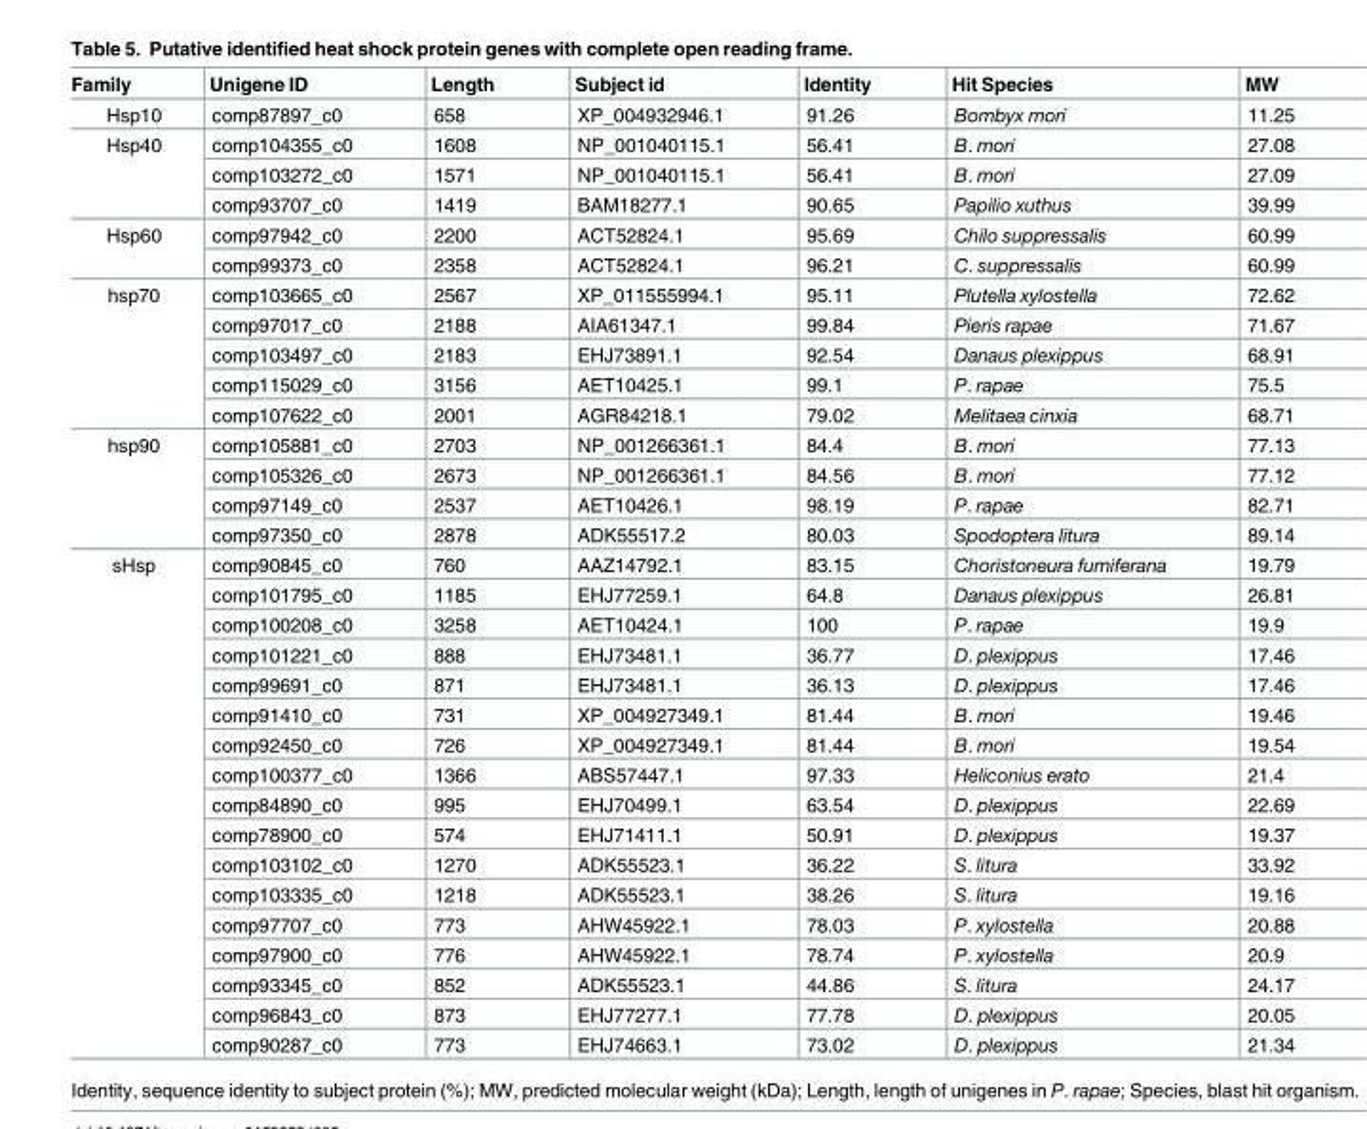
<table><thead><tr><td>Family</td><td>Unigene ID</td><td>Length</td><td>Subject id</td><td>Identity</td><td>Hit Species</td><td>MW</td></tr></thead><tbody><tr><td>Hsp10</td><td>comp87897_c0</td><td>658</td><td>XP_004932946.1</td><td>91.26</td><td>Bombyx mori</td><td>11.25</td></tr><tr><td rowspan="3">Hsp40</td><td>comp104355_c0</td><td>1608</td><td>NP_001040115.1</td><td>56.41</td><td>B. mori</td><td>27.08</td></tr><tr><td>comp103272_c0</td><td>1571</td><td>NP_001040115.1</td><td>56.41</td><td>B. mori</td><td>27.09</td></tr><tr><td>comp93707_c0</td><td>1419</td><td>BAM18277.1</td><td>90.65</td><td>Papilio xuthus</td><td>39.99</td></tr><tr><td rowspan="2">Hsp60</td><td>comp97942_c0</td><td>2200</td><td>ACT52824.1</td><td>95.69</td><td>Chilo suppressalis</td><td>60.99</td></tr><tr><td>comp99373_c0</td><td>2358</td><td>ACT52824.1</td><td>96.21</td><td>C. suppressalis</td><td>60.99</td></tr><tr><td rowspan="5">hsp70</td><td>comp103665_c0</td><td>2567</td><td>XP_011555994.1</td><td>95.11</td><td>Plutella xylostella</td><td>72.62</td></tr><tr><td>comp97017_c0</td><td>2188</td><td>AIA61347.1</td><td>99.84</td><td>Pieris rapae</td><td>71.67</td></tr><tr><td>comp103497_c0</td><td>2183</td><td>EHJ73891.1</td><td>92.54</td><td>Danaus plexippus</td><td>68.91</td></tr><tr><td>comp115029_c0</td><td>3156</td><td>AET10425.1</td><td>99.1</td><td>P. rapae</td><td>75.5</td></tr><tr><td>comp107622_c0</td><td>2001</td><td>AGR84218.1</td><td>79.02</td><td>Melitaea cinxia</td><td>68.71</td></tr><tr><td rowspan="4">hsp90</td><td>comp105881_c0</td><td>2703</td><td>NP_001266361.1</td><td>84.4</td><td>B. mori</td><td>77.13</td></tr><tr><td>comp105326_c0</td><td>2673</td><td>NP_001266361.1</td><td>84.56</td><td>B. mori</td><td>77.12</td></tr><tr><td>comp97149_c0</td><td>2537</td><td>AET10426.1</td><td>98.19</td><td>P. rapae</td><td>82.71</td></tr><tr><td>comp97350_c0</td><td>2878</td><td>ADK55517.2</td><td>80.03</td><td>Spodoptera litura</td><td>89.14</td></tr><tr><td rowspan="17">sHsp</td><td>comp90845_c0</td><td>760</td><td>AAZ14792.1</td><td>83.15</td><td>Choristoneura fumiferana</td><td>19.79</td></tr><tr><td>comp101795_c0</td><td>1185</td><td>EHJ77259.1</td><td>64.8</td><td>Danaus plexippus</td><td>26.81</td></tr><tr><td>comp100208_c0</td><td>3258</td><td>AET10424.1</td><td>100</td><td>P. rapae</td><td>19.9</td></tr><tr><td>comp101221_c0</td><td>888</td><td>EHJ73481.1</td><td>36.77</td><td>D. plexippus</td><td>17.46</td></tr><tr><td>comp99691_c0</td><td>871</td><td>EHJ73481.1</td><td>36.13</td><td>D. plexippus</td><td>17.46</td></tr><tr><td>comp91410_c0</td><td>731</td><td>XP_004927349.1</td><td>81.44</td><td>B. mori</td><td>19.46</td></tr><tr><td>comp92450_c0</td><td>726</td><td>XP_004927349.1</td><td>81.44</td><td>B. mori</td><td>19.54</td></tr><tr><td>comp100377_c0</td><td>1366</td><td>ABS57447.1</td><td>97.33</td><td>Heliconius erato</td><td>21.4</td></tr><tr><td>comp84890_c0</td><td>995</td><td>EHJ70499.1</td><td>63.54</td><td>D. plexippus</td><td>22.69</td></tr><tr><td>comp78900_c0</td><td>574</td><td>EHJ71411.1</td><td>50.91</td><td>D. plexippus</td><td>19.37</td></tr><tr><td>comp103102_c0</td><td>1270</td><td>ADK55523.1</td><td>36.22</td><td>S. litura</td><td>33.92</td></tr><tr><td>comp103335_c0</td><td>1218</td><td>ADK55523.1</td><td>38.26</td><td>S. litura</td><td>19.16</td></tr><tr><td>comp97707_c0</td><td>773</td><td>AHW45922.1</td><td>78.03</td><td>P. xylostella</td><td>20.88</td></tr><tr><td>comp97900_c0</td><td>776</td><td>AHW45922.1</td><td>78.74</td><td>P. xylostella</td><td>20.9</td></tr><tr><td>comp93345_c0</td><td>852</td><td>ADK55523.1</td><td>44.86</td><td>S. litura</td><td>24.17</td></tr><tr><td>comp96843_c0</td><td>873</td><td>EHJ77277.1</td><td>77.78</td><td>D. plexippus</td><td>20.05</td></tr><tr><td>comp90287_c0</td><td>773</td><td>EHJ74663.1</td><td>73.02</td><td>D. plexippus</td><td>21.34</td></tr></tbody></table>